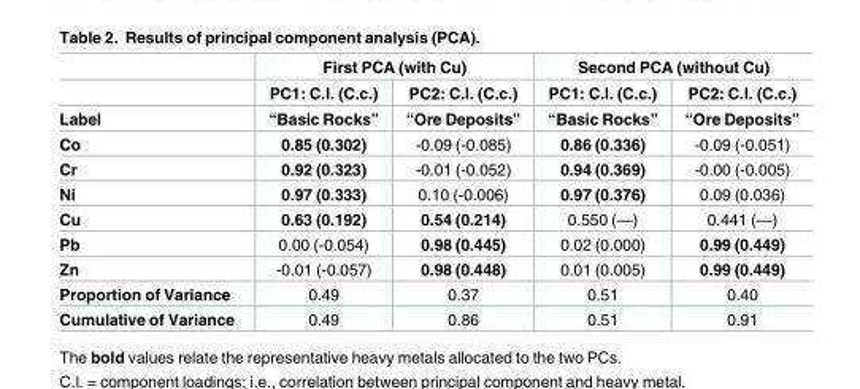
<table><thead><tr><td rowspan="2"></td><td colspan="2">First PCA (with Cu)</td><td colspan="2">Second PCA (without Cu)</td></tr><tr><td>PC1: C.l. (C.c.)</td><td>PC2: C.l. (C.c.)</td><td>PC1: C.l. (C.c.)</td><td>PC2: C.l. (C.c.)</td></tr></thead><tbody><tr><td>Label</td><td>“Basic Rocks”</td><td>“Ore Deposits”</td><td>“Basic Rocks”</td><td>“Ore Deposits”</td></tr><tr><td>Co</td><td>0.85 (0.302)</td><td>-0.09 (-0.085)</td><td>0.86 (0.336)</td><td>-0.09 (-0.051)</td></tr><tr><td>Cr</td><td>0.92 (0.323)</td><td>-0.01 (-0.052)</td><td>0.94 (0.369)</td><td>-0.00 (-0.005)</td></tr><tr><td>Ni</td><td>0.97 (0.333)</td><td>0.10 (-0.006)</td><td>0.97 (0.376)</td><td>0.09 (0.036)</td></tr><tr><td>Cu</td><td>0.63 (0.192)</td><td>0.54 (0.214)</td><td>0.550 (—)</td><td>0.441 (—)</td></tr><tr><td>Pb</td><td>0.00 (-0.054)</td><td>0.98 (0.445)</td><td>0.02 (0.000)</td><td>0.99 (0.449)</td></tr><tr><td>Zn</td><td>-0.01 (-0.057)</td><td>0.98 (0.448)</td><td>0.01 (0.005)</td><td>0.99 (0.449)</td></tr><tr><td>Proportion of Variance</td><td>0.49</td><td>0.37</td><td>0.51</td><td>0.40</td></tr><tr><td>Cumulative of Variance</td><td>0.49</td><td>0.86</td><td>0.51</td><td>0.91</td></tr></tbody></table>